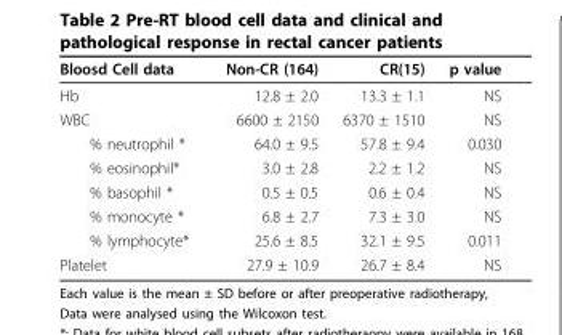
<table><thead><tr><td>Bloosd Cell data</td><td>Non-CR (164)</td><td>CR(15)</td><td>p value</td></tr></thead><tbody><tr><td>Hb</td><td>12.8 ± 2.0</td><td>13.3 ± 1.1</td><td>NS</td></tr><tr><td>WBC</td><td>6600 ± 2150</td><td>6370 ± 1510</td><td>NS</td></tr><tr><td>% neutrophil *</td><td>64.0 ± 9.5</td><td>57.8 ± 9.4</td><td>0.030</td></tr><tr><td>% eosinophil*</td><td>3.0 ± 2.8</td><td>2.2 ± 1.2</td><td>NS</td></tr><tr><td>% basophil *</td><td>0.5 ± 0.5</td><td>0.6 ± 0.4</td><td>NS</td></tr><tr><td>% monocyte *</td><td>6.8 ± 2.7</td><td>7.3 ± 3.0</td><td>NS</td></tr><tr><td>% lymphocyte*</td><td>25.6 ± 8.5</td><td>32.1 ± 9.5</td><td>0.011</td></tr><tr><td>Platelet</td><td>27.9 ± 10.9</td><td>26.7 ± 8.4</td><td>NS</td></tr></tbody></table>